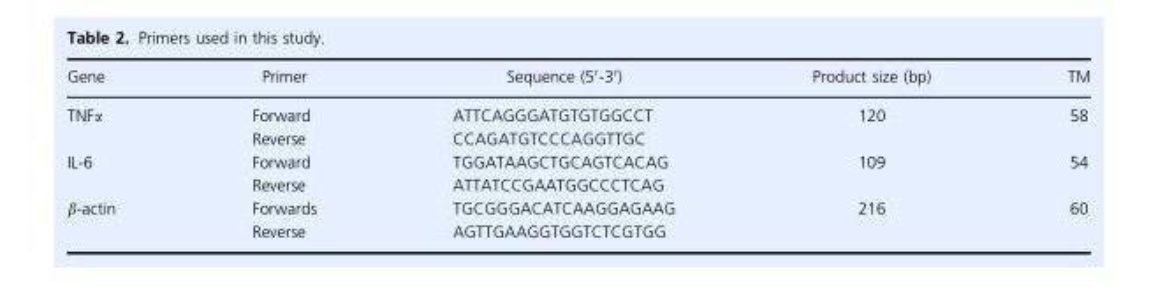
<table><thead><tr><td>Gene</td><td>Primer</td><td>Sequence (5′-3′)</td><td>Product size (bp)</td><td>TM</td></tr></thead><tbody><tr><td rowspan="2">TNFα</td><td>Forward</td><td>ATTCAGGGATGTGTGGCCT</td><td>120</td><td>58</td></tr><tr><td>Reverse</td><td>CCAGATGTCCCAGGTTGC</td><td></td><td></td></tr><tr><td rowspan="2">IL-6</td><td>Forward</td><td>TGGATAAGCTGCAGTCACAG</td><td>109</td><td>54</td></tr><tr><td>Reverse</td><td>ATTATCCGAATGGCCCTCAG</td><td></td><td></td></tr><tr><td rowspan="2">β-actin</td><td>Forwards</td><td>TGCGGGACATCAAGGAGAAG</td><td>216</td><td>60</td></tr><tr><td>Reverse</td><td>AGTTGAAGGTGGTCTCGTGG</td><td></td><td></td></tr></tbody></table>